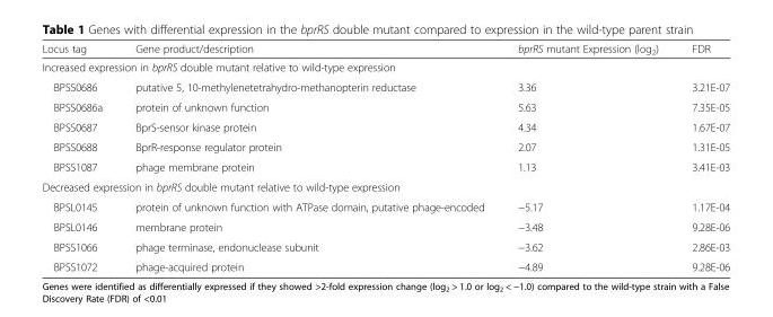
<table><thead><tr><td>Locus tag</td><td>Gene product/description</td><td>bprRS mutant Expression (log<sub>2</sub>)</td><td>FDR</td></tr></thead><tbody><tr><td colspan="4">Increased expression in bprRS double mutant relative to wild-type expression</td></tr><tr><td>BPSS0686</td><td>putative 5, 10-methylenetetrahydro-methanopterin reductase</td><td>3.36</td><td>3.21E-07</td></tr><tr><td>BPSS0686a</td><td>protein of unknown function</td><td>5.63</td><td>7.35E-05</td></tr><tr><td>BPSS0687</td><td>BprS-sensor kinase protein</td><td>4.34</td><td>1.67E-07</td></tr><tr><td>BPSS0688</td><td>BprR-response regulator protein</td><td>2.07</td><td>1.31E-05</td></tr><tr><td>BPSS1087</td><td>phage membrane protein</td><td>1.13</td><td>3.41E-03</td></tr><tr><td colspan="4">Decreased expression in bprRS double mutant relative to wild-type expression</td></tr><tr><td>BPSL0145</td><td>protein of unknown function with ATPase domain, putative phage-encoded</td><td>−5.17</td><td>1.17E-04</td></tr><tr><td>BPSL0146</td><td>membrane protein</td><td>−3.48</td><td>9.28E-06</td></tr><tr><td>BPSS1066</td><td>phage terminase, endonuclease subunit</td><td>−3.62</td><td>2.86E-03</td></tr><tr><td>BPSS1072</td><td>phage-acquired protein</td><td>−4.89</td><td>9.28E-06</td></tr></tbody></table>